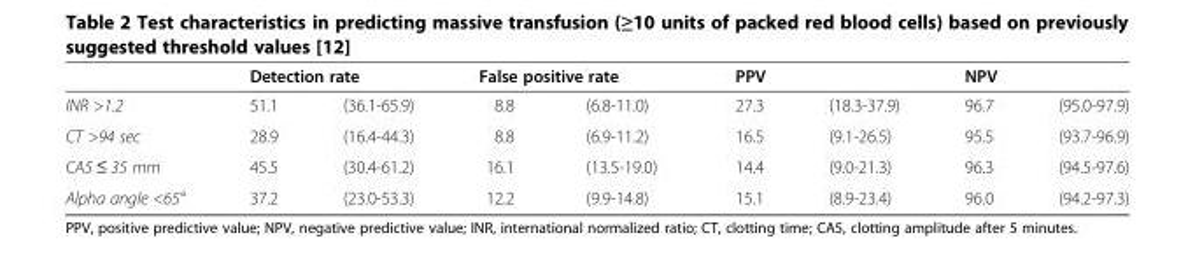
<table><thead><tr><td rowspan="2">INR &gt;1.2</td><td colspan="2">Detection rate</td><td colspan="2">False positive rate</td><td colspan="2">PPV</td><td colspan="2">NPV</td></tr><tr><td>51.1</td><td>(36.1-65.9)</td><td>8.8</td><td>(6.8-11.0)</td><td>27.3</td><td>(18.3-37.9)</td><td>96.7</td><td>(95.0-97.9)</td></tr></thead><tbody><tr><td>CT &gt;94 sec</td><td>28.9</td><td>(16.4-44.3)</td><td>8.8</td><td>(6.9-11.2)</td><td>16.5</td><td>(9.1-26.5)</td><td>95.5</td><td>(93.7-96.9)</td></tr><tr><td>CA5 ≤ 35 mm</td><td>45.5</td><td>(30.4-61.2)</td><td>16.1</td><td>(13.5-19.0)</td><td>14.4</td><td>(9.0-21.3)</td><td>96.3</td><td>(94.5-97.6)</td></tr><tr><td>Alpha angle &lt;65°</td><td>37.2</td><td>(23.0-53.3)</td><td>12.2</td><td>(9.9-14.8)</td><td>15.1</td><td>(8.9-23.4)</td><td>96.0</td><td>(94.2-97.3)</td></tr></tbody></table>